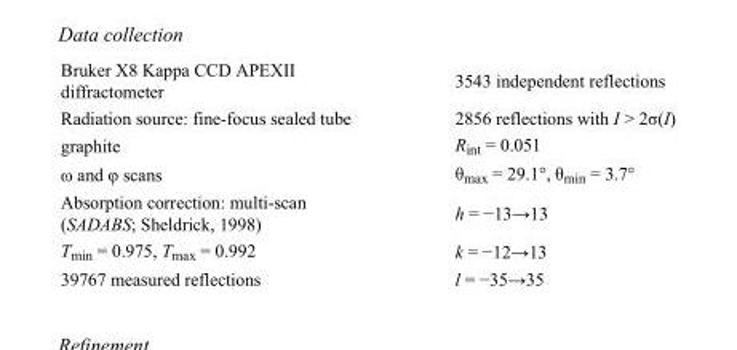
<table><tbody><tr><td>Bruker X8 Kappa CCD APEXII diffractometer</td><td>3543 independent reflections</td></tr><tr><td>Radiation source: fine-focus sealed tube</td><td>2856 reflections with I &gt; 2σ(I)</td></tr><tr><td>graphite</td><td>R<sub>int</sub> = 0.051</td></tr><tr><td>ω and φ scans</td><td>θ<sub>max</sub> = 29.1°, θ<sub>min</sub> = 3.7°</td></tr><tr><td>Absorption correction: multi-scan (SADABS; Sheldrick, 1998)</td><td>h = −13→13</td></tr><tr><td>T<sub>min</sub> = 0.975, T<sub>max</sub> = 0.992</td><td>k = −12→13</td></tr><tr><td>39767 measured reflections</td><td>l = −35→35</td></tr></tbody></table>